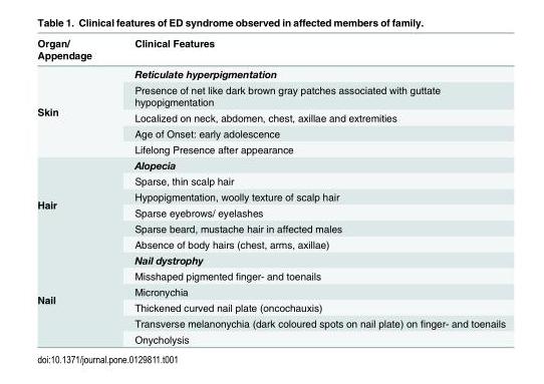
<table><thead><tr><td>Organ/ Appendage</td><td>Clinical Features</td></tr></thead><tbody><tr><td rowspan="5">Skin</td><td>Reticulate hyperpigmentation</td></tr><tr><td>Presence of net like dark brown gray patches associated with guttate hypopigmentation</td></tr><tr><td>Localized on neck, abdomen, chest, axillae and extremities</td></tr><tr><td>Age of Onset: early adolescence</td></tr><tr><td>Lifelong Presence after appearance</td></tr><tr><td rowspan="6">Hair</td><td>Alopecia</td></tr><tr><td>Sparse, thin scalp hair</td></tr><tr><td>Hypopigmentation, woolly texture of scalp hair</td></tr><tr><td>Sparse eyebrows/ eyelashes</td></tr><tr><td>Sparse beard, mustache hair in affected males</td></tr><tr><td>Absence of body hairs (chest, arms, axillae)</td></tr><tr><td rowspan="6">Nail</td><td>Nail dystrophy</td></tr><tr><td>Misshaped pigmented finger- and toenails</td></tr><tr><td>Micronychia</td></tr><tr><td>Thickened curved nail plate (oncochauxis)</td></tr><tr><td>Transverse melanonychia (dark coloured spots on nail plate) on finger- and toenails</td></tr><tr><td>Onycholysis</td></tr></tbody></table>